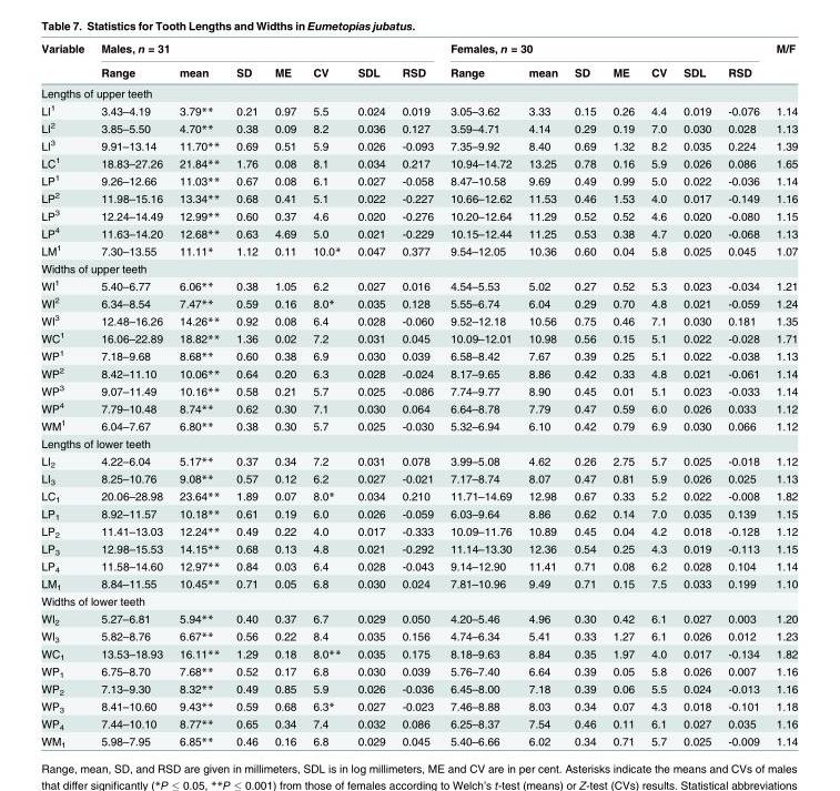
<table><thead><tr><td rowspan="2">Variable</td><td colspan="7">Males, n = 31</td><td colspan="7">Females, n = 30</td><td rowspan="2">M/F</td></tr><tr><td>Range</td><td>mean</td><td>SD</td><td>ME</td><td>CV</td><td>SDL</td><td>RSD</td><td>Range</td><td>mean</td><td>SD</td><td>ME</td><td>CV</td><td>SDL</td><td>RSD</td></tr></thead><tbody><tr><td colspan="16">Lengths of upper teeth</td></tr><tr><td>LI<sup>1</sup></td><td>3.43–4.19</td><td>3.79**</td><td>0.21</td><td>0.97</td><td>5.5</td><td>0.024</td><td>0.019</td><td>3.05–3.62</td><td>3.33</td><td>0.15</td><td>0.26</td><td>4.4</td><td>0.019</td><td>-0.076</td><td>1.14</td></tr><tr><td>LI<sup>2</sup></td><td>3.85–5.50</td><td>4.70**</td><td>0.38</td><td>0.09</td><td>8.2</td><td>0.036</td><td>0.127</td><td>3.59–4.71</td><td>4.14</td><td>0.29</td><td>0.19</td><td>7.0</td><td>0.030</td><td>0.028</td><td>1.13</td></tr><tr><td>LI<sup>3</sup></td><td>9.91–13.14</td><td>11.70**</td><td>0.69</td><td>0.51</td><td>5.9</td><td>0.026</td><td>-0.093</td><td>7.35–9.92</td><td>8.40</td><td>0.69</td><td>1.32</td><td>8.2</td><td>0.035</td><td>0.224</td><td>1.39</td></tr><tr><td>LC<sup>1</sup></td><td>18.83–27.26</td><td>21.84**</td><td>1.76</td><td>0.08</td><td>8.1</td><td>0.034</td><td>0.217</td><td>10.94–14.72</td><td>13.25</td><td>0.78</td><td>0.16</td><td>5.9</td><td>0.026</td><td>0.086</td><td>1.65</td></tr><tr><td>LP<sup>1</sup></td><td>9.26–12.66</td><td>11.03**</td><td>0.67</td><td>0.08</td><td>6.1</td><td>0.027</td><td>-0.058</td><td>8.47–10.58</td><td>9.69</td><td>0.49</td><td>0.99</td><td>5.0</td><td>0.022</td><td>-0.036</td><td>1.14</td></tr><tr><td>LP<sup>2</sup></td><td>11.98–15.16</td><td>13.34**</td><td>0.68</td><td>0.41</td><td>5.1</td><td>0.022</td><td>-0.227</td><td>10.66–12.62</td><td>11.53</td><td>0.46</td><td>1.53</td><td>4.0</td><td>0.017</td><td>-0.149</td><td>1.16</td></tr><tr><td>LP<sup>3</sup></td><td>12.24–14.49</td><td>12.99**</td><td>0.60</td><td>0.37</td><td>4.6</td><td>0.020</td><td>-0.276</td><td>10.20–12.64</td><td>11.29</td><td>0.52</td><td>0.52</td><td>4.6</td><td>0.020</td><td>-0.080</td><td>1.15</td></tr><tr><td>LP<sup>4</sup></td><td>11.63–14.20</td><td>12.68**</td><td>0.63</td><td>4.69</td><td>5.0</td><td>0.021</td><td>-0.229</td><td>10.15–12.44</td><td>11.25</td><td>0.53</td><td>0.38</td><td>4.7</td><td>0.020</td><td>-0.068</td><td>1.13</td></tr><tr><td>LM<sup>1</sup></td><td>7.30–13.55</td><td>11.11*</td><td>1.12</td><td>0.11</td><td>10.0*</td><td>0.047</td><td>0.377</td><td>9.54–12.05</td><td>10.36</td><td>0.60</td><td>0.04</td><td>5.8</td><td>0.025</td><td>0.045</td><td>1.07</td></tr><tr><td colspan="16">Widths of upper teeth</td></tr><tr><td>WI<sup>1</sup></td><td>5.40–6.77</td><td>6.06**</td><td>0.38</td><td>1.05</td><td>6.2</td><td>0.027</td><td>0.016</td><td>4.54–5.53</td><td>5.02</td><td>0.27</td><td>0.52</td><td>5.3</td><td>0.023</td><td>-0.034</td><td>1.21</td></tr><tr><td>WI<sup>2</sup></td><td>6.34–8.54</td><td>7.47**</td><td>0.59</td><td>0.16</td><td>8.0*</td><td>0.035</td><td>0.128</td><td>5.55–6.74</td><td>6.04</td><td>0.29</td><td>0.70</td><td>4.8</td><td>0.021</td><td>-0.059</td><td>1.24</td></tr><tr><td>WI<sup>3</sup></td><td>12.48–16.26</td><td>14.26**</td><td>0.92</td><td>0.08</td><td>6.4</td><td>0.028</td><td>-0.060</td><td>9.52–12.18</td><td>10.56</td><td>0.75</td><td>0.46</td><td>7.1</td><td>0.030</td><td>0.181</td><td>1.35</td></tr><tr><td>WC<sup>1</sup></td><td>16.06–22.89</td><td>18.82**</td><td>1.36</td><td>0.02</td><td>7.2</td><td>0.031</td><td>0.045</td><td>10.09–12.01</td><td>10.98</td><td>0.56</td><td>0.15</td><td>5.1</td><td>0.022</td><td>-0.028</td><td>1.71</td></tr><tr><td>WP<sup>1</sup></td><td>7.18–9.68</td><td>8.68**</td><td>0.60</td><td>0.38</td><td>6.9</td><td>0.030</td><td>0.039</td><td>6.58–8.42</td><td>7.67</td><td>0.39</td><td>0.25</td><td>5.1</td><td>0.022</td><td>-0.038</td><td>1.13</td></tr><tr><td>WP<sup>2</sup></td><td>8.42–11.10</td><td>10.06**</td><td>0.64</td><td>0.20</td><td>6.3</td><td>0.028</td><td>-0.024</td><td>8.17–9.65</td><td>8.86</td><td>0.42</td><td>0.33</td><td>4.8</td><td>0.021</td><td>-0.061</td><td>1.14</td></tr><tr><td>WP<sup>3</sup></td><td>9.07–11.49</td><td>10.16**</td><td>0.58</td><td>0.21</td><td>5.7</td><td>0.025</td><td>-0.086</td><td>7.74–9.77</td><td>8.90</td><td>0.45</td><td>0.01</td><td>5.1</td><td>0.023</td><td>-0.033</td><td>1.14</td></tr><tr><td>WP<sup>4</sup></td><td>7.79–10.48</td><td>8.74**</td><td>0.62</td><td>0.30</td><td>7.1</td><td>0.030</td><td>0.064</td><td>6.64–8.78</td><td>7.79</td><td>0.47</td><td>0.59</td><td>6.0</td><td>0.026</td><td>0.033</td><td>1.12</td></tr><tr><td>WM<sup>1</sup></td><td>6.04–7.67</td><td>6.80**</td><td>0.38</td><td>0.30</td><td>5.7</td><td>0.025</td><td>-0.030</td><td>5.32–6.94</td><td>6.10</td><td>0.42</td><td>0.79</td><td>6.9</td><td>0.030</td><td>0.066</td><td>1.12</td></tr><tr><td colspan="16">Lengths of lower teeth</td></tr><tr><td>LI<sub>2</sub></td><td>4.22–6.04</td><td>5.17**</td><td>0.37</td><td>0.34</td><td>7.2</td><td>0.031</td><td>0.078</td><td>3.99–5.08</td><td>4.62</td><td>0.26</td><td>2.75</td><td>5.7</td><td>0.025</td><td>-0.018</td><td>1.12</td></tr><tr><td>LI<sub>3</sub></td><td>8.25–10.76</td><td>9.08**</td><td>0.57</td><td>0.12</td><td>6.2</td><td>0.027</td><td>-0.021</td><td>7.17–8.74</td><td>8.07</td><td>0.47</td><td>0.81</td><td>5.9</td><td>0.026</td><td>0.025</td><td>1.13</td></tr><tr><td>LC<sub>1</sub></td><td>20.06–28.98</td><td>23.64**</td><td>1.89</td><td>0.07</td><td>8.0*</td><td>0.034</td><td>0.210</td><td>11.71–14.69</td><td>12.98</td><td>0.67</td><td>0.33</td><td>5.2</td><td>0.022</td><td>-0.008</td><td>1.82</td></tr><tr><td>LP<sub>1</sub></td><td>8.92–11.57</td><td>10.18**</td><td>0.61</td><td>0.19</td><td>6.0</td><td>0.026</td><td>-0.059</td><td>6.03–9.64</td><td>8.86</td><td>0.62</td><td>0.14</td><td>7.0</td><td>0.035</td><td>0.139</td><td>1.15</td></tr><tr><td>LP<sub>2</sub></td><td>11.41–13.03</td><td>12.24**</td><td>0.49</td><td>0.22</td><td>4.0</td><td>0.017</td><td>-0.333</td><td>10.09–11.76</td><td>10.89</td><td>0.45</td><td>0.04</td><td>4.2</td><td>0.018</td><td>-0.128</td><td>1.12</td></tr><tr><td>LP<sub>3</sub></td><td>12.98–15.53</td><td>14.15**</td><td>0.68</td><td>0.13</td><td>4.8</td><td>0.021</td><td>-0.292</td><td>11.14–13.30</td><td>12.36</td><td>0.54</td><td>0.25</td><td>4.3</td><td>0.019</td><td>-0.113</td><td>1.15</td></tr><tr><td>LP<sub>4</sub></td><td>11.58–14.60</td><td>12.97**</td><td>0.84</td><td>0.03</td><td>6.4</td><td>0.028</td><td>-0.043</td><td>9.14–12.90</td><td>11.41</td><td>0.71</td><td>0.08</td><td>6.2</td><td>0.028</td><td>0.104</td><td>1.14</td></tr><tr><td>LM<sub>1</sub></td><td>8.84–11.55</td><td>10.45**</td><td>0.71</td><td>0.05</td><td>6.8</td><td>0.030</td><td>0.024</td><td>7.81–10.96</td><td>9.49</td><td>0.71</td><td>0.15</td><td>7.5</td><td>0.033</td><td>0.199</td><td>1.10</td></tr><tr><td colspan="16">Widths of lower teeth</td></tr><tr><td>WI<sub>2</sub></td><td>5.27–6.81</td><td>5.94**</td><td>0.40</td><td>0.37</td><td>6.7</td><td>0.029</td><td>0.050</td><td>4.20–5.46</td><td>4.96</td><td>0.30</td><td>0.42</td><td>6.1</td><td>0.027</td><td>0.003</td><td>1.20</td></tr><tr><td>WI<sub>3</sub></td><td>5.82–8.76</td><td>6.67**</td><td>0.56</td><td>0.22</td><td>8.4</td><td>0.035</td><td>0.156</td><td>4.74–6.34</td><td>5.41</td><td>0.33</td><td>1.27</td><td>6.1</td><td>0.026</td><td>0.012</td><td>1.23</td></tr><tr><td>WC<sub>1</sub></td><td>13.53–18.93</td><td>16.11**</td><td>1.29</td><td>0.18</td><td>8.0**</td><td>0.035</td><td>0.175</td><td>8.18–9.63</td><td>8.84</td><td>0.35</td><td>1.97</td><td>4.0</td><td>0.017</td><td>-0.134</td><td>1.82</td></tr><tr><td>WP<sub>1</sub></td><td>6.75–8.70</td><td>7.68**</td><td>0.52</td><td>0.17</td><td>6.8</td><td>0.030</td><td>0.039</td><td>5.76–7.40</td><td>6.64</td><td>0.39</td><td>0.05</td><td>5.8</td><td>0.026</td><td>0.007</td><td>1.16</td></tr><tr><td>WP<sub>2</sub></td><td>7.13–9.30</td><td>8.32**</td><td>0.49</td><td>0.85</td><td>5.9</td><td>0.026</td><td>-0.036</td><td>6.45–8.00</td><td>7.18</td><td>0.39</td><td>0.06</td><td>5.5</td><td>0.024</td><td>-0.013</td><td>1.16</td></tr><tr><td>WP<sub>3</sub></td><td>8.41–10.60</td><td>9.43**</td><td>0.59</td><td>0.68</td><td>6.3*</td><td>0.027</td><td>-0.023</td><td>7.46–8.88</td><td>8.03</td><td>0.34</td><td>0.07</td><td>4.3</td><td>0.018</td><td>-0.101</td><td>1.18</td></tr><tr><td>WP<sub>4</sub></td><td>7.44–10.10</td><td>8.77**</td><td>0.65</td><td>0.34</td><td>7.4</td><td>0.032</td><td>0.086</td><td>6.25–8.37</td><td>7.54</td><td>0.46</td><td>0.11</td><td>6.1</td><td>0.027</td><td>0.035</td><td>1.16</td></tr><tr><td>WM<sub>1</sub></td><td>5.98–7.95</td><td>6.85**</td><td>0.46</td><td>0.16</td><td>6.8</td><td>0.029</td><td>0.045</td><td>5.40–6.66</td><td>6.02</td><td>0.34</td><td>0.71</td><td>5.7</td><td>0.025</td><td>-0.009</td><td>1.14</td></tr></tbody></table>